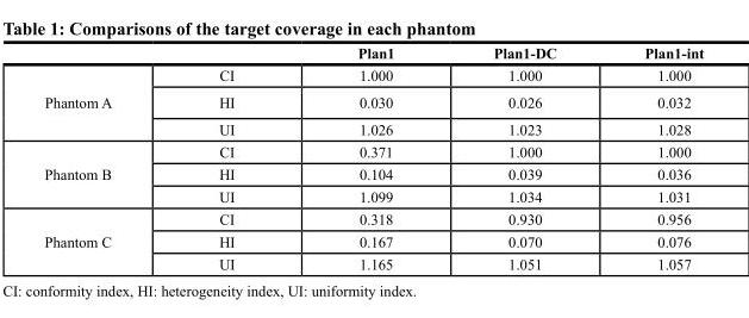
<table><thead><tr><td></td><td></td><td>Plan1</td><td>Plan1-DC</td><td>Plan1-int</td></tr></thead><tbody><tr><td rowspan="3">Phantom A</td><td>CI</td><td>1.000</td><td>1.000</td><td>1.000</td></tr><tr><td>HI</td><td>0.030</td><td>0.026</td><td>0.032</td></tr><tr><td>UI</td><td>1.026</td><td>1.023</td><td>1.028</td></tr><tr><td rowspan="3">Phantom B</td><td>CI</td><td>0.371</td><td>1.000</td><td>1.000</td></tr><tr><td>HI</td><td>0.104</td><td>0.039</td><td>0.036</td></tr><tr><td>UI</td><td>1.099</td><td>1.034</td><td>1.031</td></tr><tr><td rowspan="3">Phantom C</td><td>CI</td><td>0.318</td><td>0.930</td><td>0.956</td></tr><tr><td>HI</td><td>0.167</td><td>0.070</td><td>0.076</td></tr><tr><td>UI</td><td>1.165</td><td>1.051</td><td>1.057</td></tr></tbody></table>